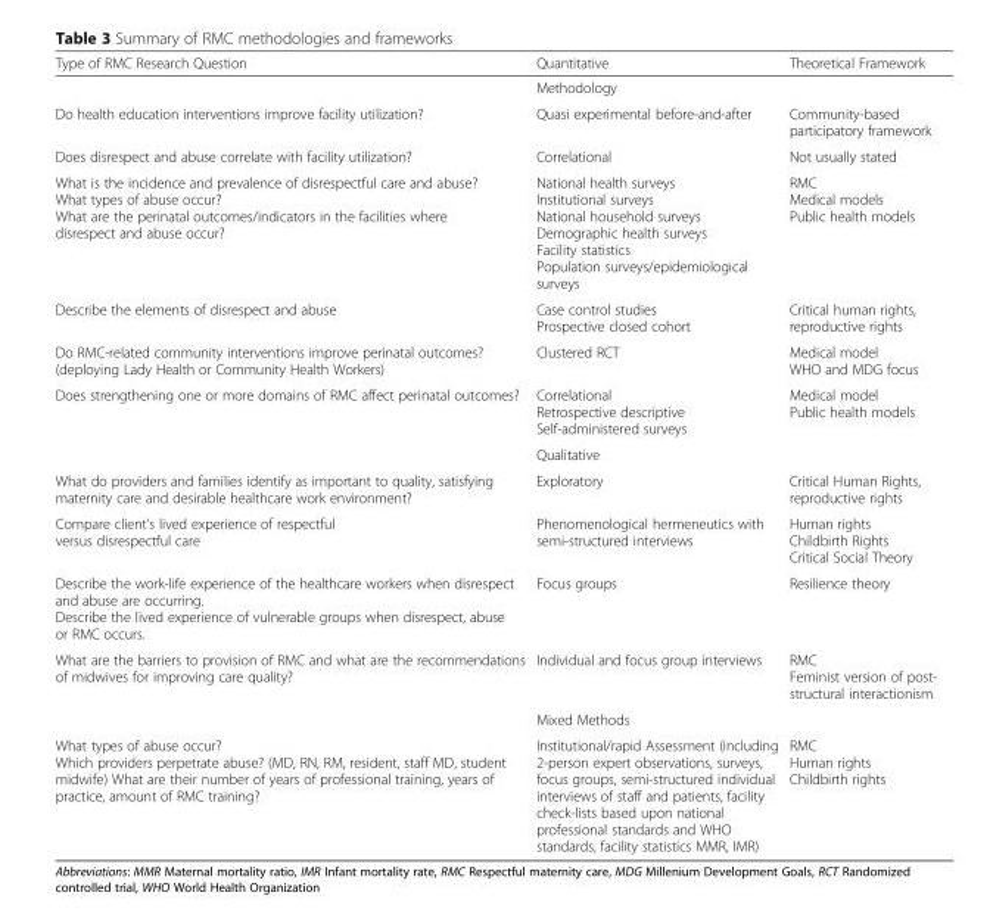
<table><thead><tr><td>Type of RMC Research Question</td><td>Quantitative</td><td>Theoretical Framework</td></tr></thead><tbody><tr><td></td><td colspan="2">Methodology</td></tr><tr><td>Do health education interventions improve facility utilization?</td><td>Quasi experimental before-and-after</td><td>Community-based participatory framework</td></tr><tr><td>Does disrespect and abuse correlate with facility utilization?</td><td>Correlational</td><td>Not usually stated</td></tr><tr><td>What is the incidence and prevalence of disrespectful care and abuse? What types of abuse occur? What are the perinatal outcomes/indicators in the facilities where disrespect and abuse occur?</td><td>National health surveys Institutional surveys National household surveys Demographic health surveys Facility statistics Population surveys/epidemiological surveys</td><td>RMC Medical models Public health models</td></tr><tr><td>Describe the elements of disrespect and abuse</td><td>Case control studies Prospective closed cohort</td><td>Critical human rights, reproductive rights</td></tr><tr><td>Do RMC-related community interventions improve perinatal outcomes? (deploying Lady Health or Community Health Workers)</td><td>Clustered RCT</td><td>Medical model WHO and MDG focus</td></tr><tr><td rowspan="2">Does strengthening one or more domains of RMC affect perinatal outcomes?</td><td>Correlational Retrospective descriptive Self-administered surveys</td><td>Medical model Public health models</td></tr><tr><td colspan="2">Qualitative</td></tr><tr><td>What do providers and families identify as important to quality, satisfying maternity care and desirable healthcare work environment?</td><td>Exploratory</td><td>Critical Human Rights, reproductive rights</td></tr><tr><td>Compare client’s lived experience of respectful versus disrespectful care</td><td>Phenomenological hermeneutics with semi-structured interviews</td><td>Human rights Childbirth Rights Critical Social Theory</td></tr><tr><td>Describe the work-life experience of the healthcare workers when disrespect and abuse are occurring. Describe the lived experience of vulnerable groups when disrespect, abuse or RMC occurs.</td><td>Focus groups</td><td>Resilience theory</td></tr><tr><td rowspan="2">What are the barriers to provision of RMC and what are the recommendations of midwives for improving care quality?</td><td>Individual and focus group interviews</td><td>RMC Feminist version of post- structural interactionism</td></tr><tr><td colspan="2">Mixed Methods</td></tr><tr><td>What types of abuse occur? Which providers perpetrate abuse? (MD, RN, RM, resident, staff MD, student midwife) What are their number of years of professional training, years of practice, amount of RMC training?</td><td>Institutional/rapid Assessment (including 2-person expert observations, surveys, focus groups, semi-structured individual interviews of staff and patients, facility check-lists based upon national professional standards and WHO standards, facility statistics MMR, IMR)</td><td>RMC Human rights Childbirth rights</td></tr></tbody></table>